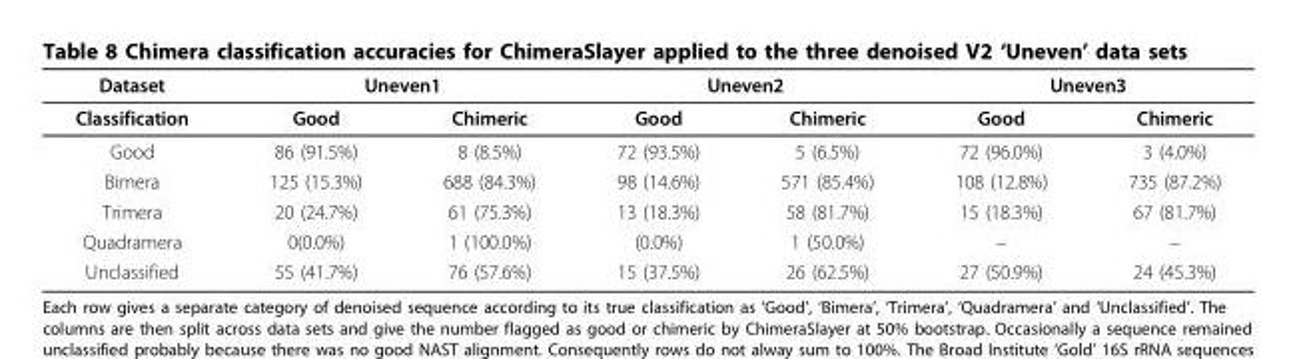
<table><thead><tr><td rowspan="2">Dataset Classification</td><td colspan="2">Uneven1</td><td colspan="2">Uneven2</td><td colspan="2">Uneven3</td></tr><tr><td>Good</td><td>Chimeric</td><td>Good</td><td>Chimeric</td><td>Good</td><td>Chimeric</td></tr></thead><tbody><tr><td>Good</td><td>86 (91.5%)</td><td>8 (8.5%)</td><td>72 (93.5%)</td><td>5 (6.5%)</td><td>72 (96.0%)</td><td>3 (4.0%)</td></tr><tr><td>Bimera</td><td>125 (15.3%)</td><td>688 (84.3%)</td><td>98 (14.6%)</td><td>571 (85.4%)</td><td>108 (12.8%)</td><td>735 (87.2%)</td></tr><tr><td>Trimera</td><td>20 (24.7%)</td><td>61 (75.3%)</td><td>13 (18.3%)</td><td>58 (81.7%)</td><td>15 (18.3%)</td><td>67 (81.7%)</td></tr><tr><td>Quadramera</td><td>0(0.0%)</td><td>1 (100.0%)</td><td>(0.0%)</td><td>1 (50.0%)</td><td>–</td><td>–</td></tr><tr><td>Unclassified</td><td>55 (41.7%)</td><td>76 (57.6%)</td><td>15 (37.5%)</td><td>26 (62.5%)</td><td>27 (50.9%)</td><td>24 (45.3%)</td></tr></tbody></table>